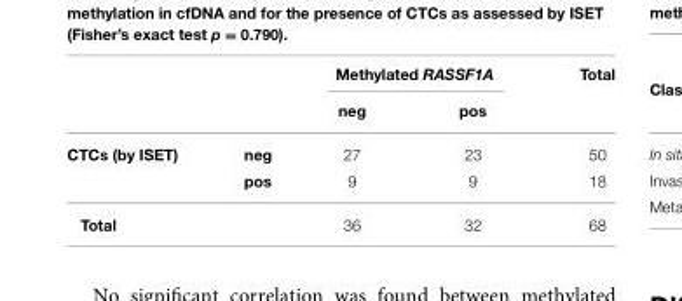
<table><thead><tr><td rowspan="2"></td><td rowspan="2"></td><td colspan="2">Methylated RASSF1A</td><td rowspan="2">Total</td></tr><tr><td>neg</td><td>pos</td></tr></thead><tbody><tr><td rowspan="2">CTCs (by ISET)</td><td>neg</td><td>27</td><td>23</td><td>50</td></tr><tr><td>pos</td><td>9</td><td>9</td><td>18</td></tr><tr><td colspan="2">Total</td><td>36</td><td>32</td><td>68</td></tr></tbody></table>